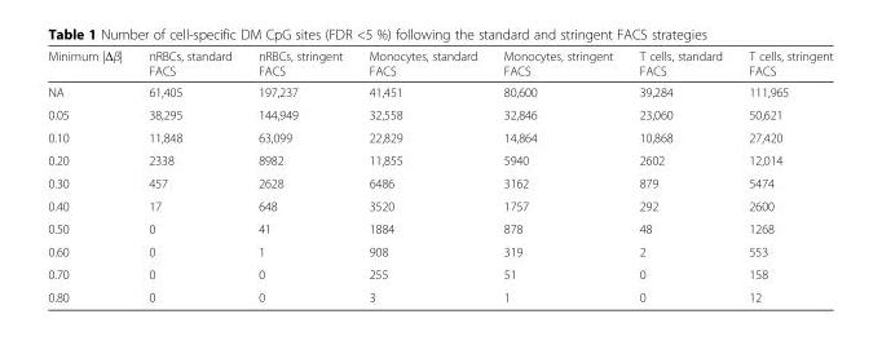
<table><thead><tr><td>Minimum |Δβ|</td><td>nRBCs, standard FACS</td><td>nRBCs, stringent FACS</td><td>Monocytes, standard FACS</td><td>Monocytes, stringent FACS</td><td>T cells, standard FACS</td><td>T cells, stringent FACS</td></tr></thead><tbody><tr><td>NA</td><td>61,405</td><td>197,237</td><td>41,451</td><td>80,600</td><td>39,284</td><td>111,965</td></tr><tr><td>0.05</td><td>38,295</td><td>144,949</td><td>32,558</td><td>32,846</td><td>23,060</td><td>50,621</td></tr><tr><td>0.10</td><td>11,848</td><td>63,099</td><td>22,829</td><td>14,864</td><td>10,868</td><td>27,420</td></tr><tr><td>0.20</td><td>2338</td><td>8982</td><td>11,855</td><td>5940</td><td>2602</td><td>12,014</td></tr><tr><td>0.30</td><td>457</td><td>2628</td><td>6486</td><td>3162</td><td>879</td><td>5474</td></tr><tr><td>0.40</td><td>17</td><td>648</td><td>3520</td><td>1757</td><td>292</td><td>2600</td></tr><tr><td>0.50</td><td>0</td><td>41</td><td>1884</td><td>878</td><td>48</td><td>1268</td></tr><tr><td>0.60</td><td>0</td><td>1</td><td>908</td><td>319</td><td>2</td><td>553</td></tr><tr><td>0.70</td><td>0</td><td>0</td><td>255</td><td>51</td><td>0</td><td>158</td></tr><tr><td>0.80</td><td>0</td><td>0</td><td>3</td><td>1</td><td>0</td><td>12</td></tr></tbody></table>